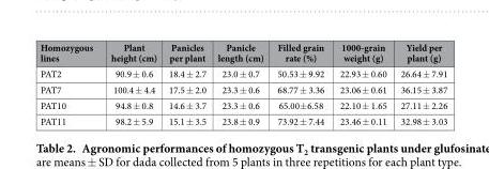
<table><thead><tr><td>Homozygous lines</td><td>Plant height (cm)</td><td>Panicles per plant</td><td>Panicle length (cm)</td><td>Filled grain rate (%)</td><td>1000-grain weight (g)</td><td>Yield per plant (g)</td></tr></thead><tbody><tr><td>PAT2</td><td>90.9 ± 0.6</td><td>18.4 ± 2.7</td><td>23.0 ± 0.7</td><td>50.53 ± 9.92</td><td>22.93 ± 0.60</td><td>26.64 ± 7.91</td></tr><tr><td>PAT7</td><td>100.4 ± 4.4</td><td>17.5 ± 2.0</td><td>23.3 ± 0.6</td><td>68.77 ± 3.36</td><td>23.06 ± 0.61</td><td>36.15 ± 3.87</td></tr><tr><td>PAT10</td><td>94.8 ± 0.8</td><td>14.6 ± 3.7</td><td>23.3 ± 0.6</td><td>65.00± 6.58</td><td>22.10 ± 1.65</td><td>27.11 ± 2.26</td></tr><tr><td>PAT11</td><td>98.2 ± 5.9</td><td>15.1 ± 3.5</td><td>23.8 ± 0.9</td><td>73.92 ± 7.44</td><td>23.46 ± 0.11</td><td>32.98 ± 3.03</td></tr></tbody></table>